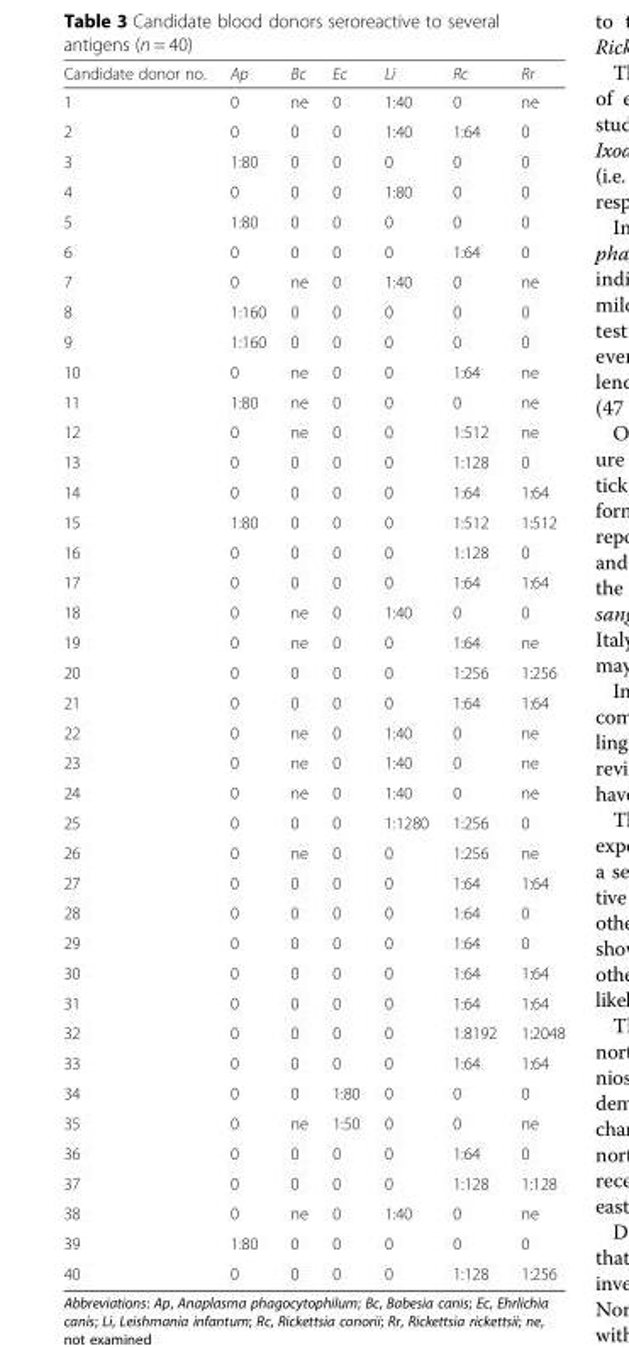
<table><thead><tr><td>Candidate donor no.</td><td>Ap</td><td>Bc</td><td>Ec</td><td>Li</td><td>Rc</td><td>Rr</td></tr></thead><tbody><tr><td>1</td><td>0</td><td>ne</td><td>0</td><td>1:40</td><td>0</td><td>ne</td></tr><tr><td>2</td><td>0</td><td>0</td><td>0</td><td>1:40</td><td>1:64</td><td>0</td></tr><tr><td>3</td><td>1:80</td><td>0</td><td>0</td><td>0</td><td>0</td><td>0</td></tr><tr><td>4</td><td>0</td><td>0</td><td>0</td><td>1:80</td><td>0</td><td>0</td></tr><tr><td>5</td><td>1:80</td><td>0</td><td>0</td><td>0</td><td>0</td><td>0</td></tr><tr><td>6</td><td>0</td><td>0</td><td>0</td><td>0</td><td>1:64</td><td>0</td></tr><tr><td>7</td><td>0</td><td>ne</td><td>0</td><td>1:40</td><td>0</td><td>ne</td></tr><tr><td>8</td><td>1:160</td><td>0</td><td>0</td><td>0</td><td>0</td><td>0</td></tr><tr><td>9</td><td>1:160</td><td>0</td><td>0</td><td>0</td><td>0</td><td>0</td></tr><tr><td>10</td><td>0</td><td>ne</td><td>0</td><td>0</td><td>1:64</td><td>ne</td></tr><tr><td>11</td><td>1:80</td><td>ne</td><td>0</td><td>0</td><td>0</td><td>ne</td></tr><tr><td>12</td><td>0</td><td>ne</td><td>0</td><td>0</td><td>1:512</td><td>ne</td></tr><tr><td>13</td><td>0</td><td>0</td><td>0</td><td>0</td><td>1:128</td><td>0</td></tr><tr><td>14</td><td>0</td><td>0</td><td>0</td><td>0</td><td>1:64</td><td>1:64</td></tr><tr><td>15</td><td>1:80</td><td>0</td><td>0</td><td>0</td><td>1:512</td><td>1:512</td></tr><tr><td>16</td><td>0</td><td>0</td><td>0</td><td>0</td><td>1:128</td><td>0</td></tr><tr><td>17</td><td>0</td><td>0</td><td>0</td><td>0</td><td>1:64</td><td>1:64</td></tr><tr><td>18</td><td>0</td><td>ne</td><td>0</td><td>1:40</td><td>0</td><td>0</td></tr><tr><td>19</td><td>0</td><td>ne</td><td>0</td><td>0</td><td>1:64</td><td>ne</td></tr><tr><td>20</td><td>0</td><td>0</td><td>0</td><td>0</td><td>1:256</td><td>1:256</td></tr><tr><td>21</td><td>0</td><td>0</td><td>0</td><td>0</td><td>1:64</td><td>1:64</td></tr><tr><td>22</td><td>0</td><td>ne</td><td>0</td><td>1:40</td><td>0</td><td>ne</td></tr><tr><td>23</td><td>0</td><td>ne</td><td>0</td><td>1:40</td><td>0</td><td>ne</td></tr><tr><td>24</td><td>0</td><td>ne</td><td>0</td><td>1:40</td><td>0</td><td>ne</td></tr><tr><td>25</td><td>0</td><td>0</td><td>0</td><td>1:1280</td><td>1:256</td><td>0</td></tr><tr><td>26</td><td>0</td><td>ne</td><td>0</td><td>0</td><td>1:256</td><td>ne</td></tr><tr><td>27</td><td>0</td><td>0</td><td>0</td><td>0</td><td>1:64</td><td>1:64</td></tr><tr><td>28</td><td>0</td><td>0</td><td>0</td><td>0</td><td>1:64</td><td>0</td></tr><tr><td>29</td><td>0</td><td>0</td><td>0</td><td>0</td><td>1:64</td><td>0</td></tr><tr><td>30</td><td>0</td><td>0</td><td>0</td><td>0</td><td>1:64</td><td>1:64</td></tr><tr><td>31</td><td>0</td><td>0</td><td>0</td><td>0</td><td>1:64</td><td>1:64</td></tr><tr><td>32</td><td>0</td><td>0</td><td>0</td><td>0</td><td>1:8192</td><td>1:2048</td></tr><tr><td>33</td><td>0</td><td>0</td><td>0</td><td>0</td><td>1:64</td><td>1:64</td></tr><tr><td>34</td><td>0</td><td>0</td><td>1:80</td><td>0</td><td>0</td><td>0</td></tr><tr><td>35</td><td>0</td><td>ne</td><td>1:50</td><td>0</td><td>0</td><td>ne</td></tr><tr><td>36</td><td>0</td><td>0</td><td>0</td><td>0</td><td>1:64</td><td>0</td></tr><tr><td>37</td><td>0</td><td>0</td><td>0</td><td>0</td><td>1:128</td><td>1:128</td></tr><tr><td>38</td><td>0</td><td>ne</td><td>0</td><td>1:40</td><td>0</td><td>ne</td></tr><tr><td>39</td><td>1:80</td><td>0</td><td>0</td><td>0</td><td>0</td><td>0</td></tr><tr><td>40</td><td>0</td><td>0</td><td>0</td><td>0</td><td>1:128</td><td>1:256</td></tr></tbody></table>